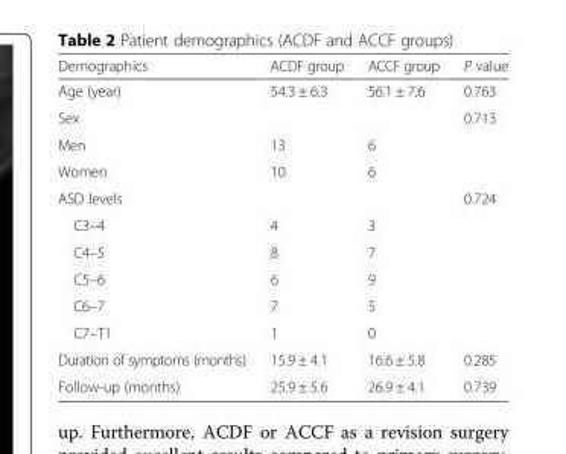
<table><thead><tr><td>Demographics</td><td>ACDF group</td><td>ACCF group</td><td>P value</td></tr></thead><tbody><tr><td>Age (year)</td><td>54.3 ± 6.3</td><td>56.1 ± 7.6</td><td>0.763</td></tr><tr><td>Sex</td><td></td><td></td><td>0.713</td></tr><tr><td>Men</td><td>13</td><td>6</td><td></td></tr><tr><td>Women</td><td>10</td><td>6</td><td></td></tr><tr><td colspan="2">ASD levels</td><td></td><td>0.724</td></tr><tr><td>C3–4</td><td>4</td><td>3</td><td></td></tr><tr><td>C4–5</td><td>8</td><td>7</td><td></td></tr><tr><td>C5–6</td><td>6</td><td>9</td><td></td></tr><tr><td>C6–7</td><td>7</td><td>5</td><td></td></tr><tr><td>C7–T1</td><td>1</td><td>0</td><td></td></tr><tr><td>Duration of symptoms (months)</td><td>15.9 ± 4.1</td><td>16.6 ± 5.8</td><td>0.285</td></tr><tr><td>Follow-up (months)</td><td>25.9 ± 5.6</td><td>26.9 ± 4.1</td><td>0.739</td></tr></tbody></table>